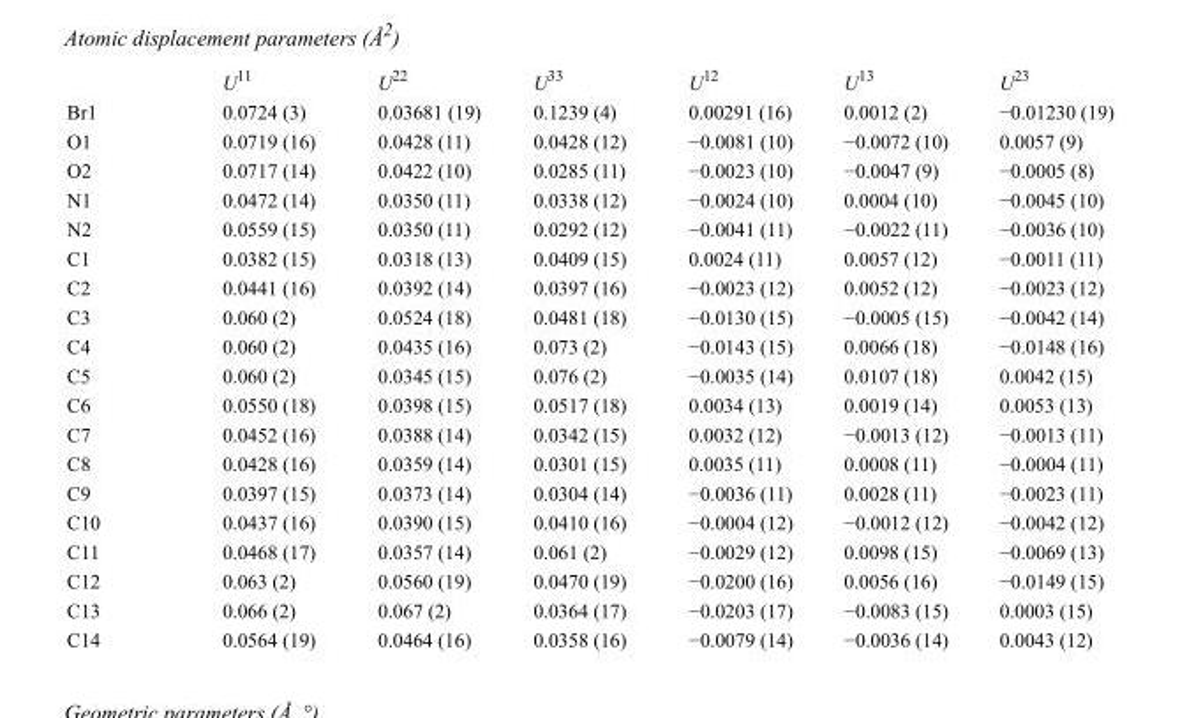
<table><thead><tr><td></td><td>U<sup>11</sup></td><td>U<sup>22</sup></td><td>U<sup>33</sup></td><td>U<sup>12</sup></td><td>U<sup>13</sup></td><td>U<sup>23</sup></td></tr></thead><tbody><tr><td>Br1</td><td>0.0724 (3)</td><td>0.03681 (19)</td><td>0.1239 (4)</td><td>0.00291 (16)</td><td>0.0012 (2)</td><td>−0.01230 (19)</td></tr><tr><td>O1</td><td>0.0719 (16)</td><td>0.0428 (11)</td><td>0.0428 (12)</td><td>−0.0081 (10)</td><td>−0.0072 (10)</td><td>0.0057 (9)</td></tr><tr><td>O2</td><td>0.0717 (14)</td><td>0.0422 (10)</td><td>0.0285 (11)</td><td>−0.0023 (10)</td><td>−0.0047 (9)</td><td>−0.0005 (8)</td></tr><tr><td>N1</td><td>0.0472 (14)</td><td>0.0350 (11)</td><td>0.0338 (12)</td><td>−0.0024 (10)</td><td>0.0004 (10)</td><td>−0.0045 (10)</td></tr><tr><td>N2</td><td>0.0559 (15)</td><td>0.0350 (11)</td><td>0.0292 (12)</td><td>−0.0041 (11)</td><td>−0.0022 (11)</td><td>−0.0036 (10)</td></tr><tr><td>C1</td><td>0.0382 (15)</td><td>0.0318 (13)</td><td>0.0409 (15)</td><td>0.0024 (11)</td><td>0.0057 (12)</td><td>−0.0011 (11)</td></tr><tr><td>C2</td><td>0.0441 (16)</td><td>0.0392 (14)</td><td>0.0397 (16)</td><td>−0.0023 (12)</td><td>0.0052 (12)</td><td>−0.0023 (12)</td></tr><tr><td>C3</td><td>0.060 (2)</td><td>0.0524 (18)</td><td>0.0481 (18)</td><td>−0.0130 (15)</td><td>−0.0005 (15)</td><td>−0.0042 (14)</td></tr><tr><td>C4</td><td>0.060 (2)</td><td>0.0435 (16)</td><td>0.073 (2)</td><td>−0.0143 (15)</td><td>0.0066 (18)</td><td>−0.0148 (16)</td></tr><tr><td>C5</td><td>0.060 (2)</td><td>0.0345 (15)</td><td>0.076 (2)</td><td>−0.0035 (14)</td><td>0.0107 (18)</td><td>0.0042 (15)</td></tr><tr><td>C6</td><td>0.0550 (18)</td><td>0.0398 (15)</td><td>0.0517 (18)</td><td>0.0034 (13)</td><td>0.0019 (14)</td><td>0.0053 (13)</td></tr><tr><td>C7</td><td>0.0452 (16)</td><td>0.0388 (14)</td><td>0.0342 (15)</td><td>0.0032 (12)</td><td>−0.0013 (12)</td><td>−0.0013 (11)</td></tr><tr><td>C8</td><td>0.0428 (16)</td><td>0.0359 (14)</td><td>0.0301 (15)</td><td>0.0035 (11)</td><td>0.0008 (11)</td><td>−0.0004 (11)</td></tr><tr><td>C9</td><td>0.0397 (15)</td><td>0.0373 (14)</td><td>0.0304 (14)</td><td>−0.0036 (11)</td><td>0.0028 (11)</td><td>−0.0023 (11)</td></tr><tr><td>C10</td><td>0.0437 (16)</td><td>0.0390 (15)</td><td>0.0410 (16)</td><td>−0.0004 (12)</td><td>−0.0012 (12)</td><td>−0.0042 (12)</td></tr><tr><td>C11</td><td>0.0468 (17)</td><td>0.0357 (14)</td><td>0.061 (2)</td><td>−0.0029 (12)</td><td>0.0098 (15)</td><td>−0.0069 (13)</td></tr><tr><td>C12</td><td>0.063 (2)</td><td>0.0560 (19)</td><td>0.0470 (19)</td><td>−0.0200 (16)</td><td>0.0056 (16)</td><td>−0.0149 (15)</td></tr><tr><td>C13</td><td>0.066 (2)</td><td>0.067 (2)</td><td>0.0364 (17)</td><td>−0.0203 (17)</td><td>−0.0083 (15)</td><td>0.0003 (15)</td></tr><tr><td>C14</td><td>0.0564 (19)</td><td>0.0464 (16)</td><td>0.0358 (16)</td><td>−0.0079 (14)</td><td>−0.0036 (14)</td><td>0.0043 (12)</td></tr></tbody></table>